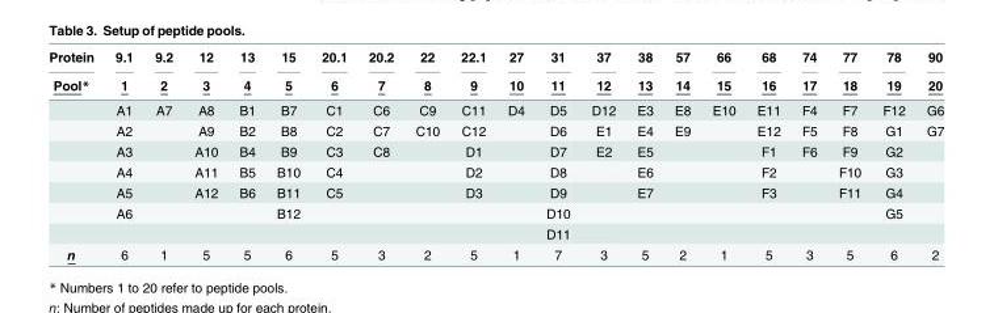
<table><thead><tr><td rowspan="2">Protein Pool*</td><td rowspan="2">9.1 1</td><td rowspan="2">9.2 2</td><td rowspan="2">12 3</td><td rowspan="2">13 4</td><td rowspan="2">15 5</td><td rowspan="2">20.1 6</td><td rowspan="2">20.2 7</td><td rowspan="2">22 8</td><td rowspan="2">22.1 9</td><td rowspan="2">27 10</td><td rowspan="2">31 11</td><td rowspan="2">37 12</td><td rowspan="2">38 13</td><td rowspan="2">57 14</td><td rowspan="2">66 15</td><td rowspan="2">68 16</td><td rowspan="2">74 17</td><td rowspan="2">77 18</td><td rowspan="2">78 19</td><td rowspan="2">90 20</td></tr><tr></tr></thead><tbody><tr><td></td><td>A1</td><td>A7</td><td>A8</td><td>B1</td><td>B7</td><td>C1</td><td>C6</td><td>C9</td><td>C11</td><td>D4</td><td>D5</td><td>D12</td><td>E3</td><td>E8</td><td>E10</td><td>E11</td><td>F4</td><td>F7</td><td>F12</td><td>G6</td></tr><tr><td></td><td>A2</td><td></td><td>A9</td><td>B2</td><td>B8</td><td>C2</td><td>C7</td><td>C10</td><td>C12</td><td></td><td>D6</td><td>E1</td><td>E4</td><td>E9</td><td></td><td>E12</td><td>F5</td><td>F8</td><td>G1</td><td>G7</td></tr><tr><td></td><td>A3</td><td></td><td>A10</td><td>B4</td><td>B9</td><td>C3</td><td>C8</td><td></td><td>D1</td><td></td><td>D7</td><td>E2</td><td>E5</td><td></td><td></td><td>F1</td><td>F6</td><td>F9</td><td>G2</td><td></td></tr><tr><td></td><td>A4</td><td></td><td>A11</td><td>B5</td><td>B10</td><td>C4</td><td></td><td></td><td>D2</td><td></td><td>D8</td><td></td><td>E6</td><td></td><td></td><td>F2</td><td></td><td>F10</td><td>G3</td><td></td></tr><tr><td></td><td>A5</td><td></td><td>A12</td><td>B6</td><td>B11</td><td>C5</td><td></td><td></td><td>D3</td><td></td><td>D9</td><td></td><td>E7</td><td></td><td></td><td>F3</td><td></td><td>F11</td><td>G4</td><td></td></tr><tr><td></td><td>A6</td><td></td><td></td><td></td><td>B12</td><td></td><td></td><td></td><td></td><td></td><td>D10</td><td></td><td></td><td></td><td></td><td></td><td></td><td></td><td>G5</td><td></td></tr><tr><td></td><td></td><td></td><td></td><td></td><td></td><td></td><td></td><td></td><td></td><td></td><td>D11</td><td></td><td></td><td></td><td></td><td></td><td></td><td></td><td></td><td></td></tr><tr><td>n</td><td>6</td><td>1</td><td>5</td><td>5</td><td>6</td><td>5</td><td>3</td><td>2</td><td>5</td><td>1</td><td>7</td><td>3</td><td>5</td><td>2</td><td>1</td><td>5</td><td>3</td><td>5</td><td>6</td><td>2</td></tr></tbody></table>